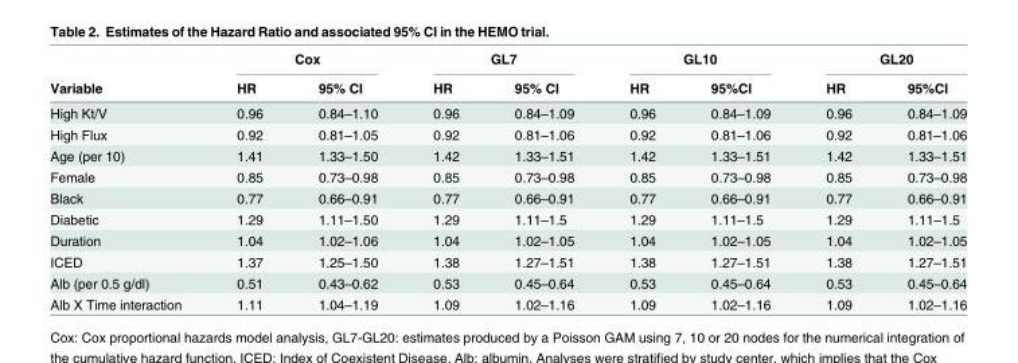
<table><thead><tr><td rowspan="2">Variable</td><td colspan="2">Cox</td><td colspan="2">GL7</td><td colspan="2">GL10</td><td colspan="2">GL20</td></tr><tr><td>HR</td><td>95% CI</td><td>HR</td><td>95% CI</td><td>HR</td><td>95%CI</td><td>HR</td><td>95%CI</td></tr></thead><tbody><tr><td>High Kt/V</td><td>0.96</td><td>0.84–1.10</td><td>0.96</td><td>0.84–1.09</td><td>0.96</td><td>0.84–1.09</td><td>0.96</td><td>0.84–1.09</td></tr><tr><td>High Flux</td><td>0.92</td><td>0.81–1.05</td><td>0.92</td><td>0.81–1.06</td><td>0.92</td><td>0.81–1.06</td><td>0.92</td><td>0.81–1.06</td></tr><tr><td>Age (per 10)</td><td>1.41</td><td>1.33–1.50</td><td>1.42</td><td>1.33–1.51</td><td>1.42</td><td>1.33–1.51</td><td>1.42</td><td>1.33–1.51</td></tr><tr><td>Female</td><td>0.85</td><td>0.73–0.98</td><td>0.85</td><td>0.73–0.98</td><td>0.85</td><td>0.73–0.98</td><td>0.85</td><td>0.73–0.98</td></tr><tr><td>Black</td><td>0.77</td><td>0.66–0.91</td><td>0.77</td><td>0.66–0.91</td><td>0.77</td><td>0.66–0.91</td><td>0.77</td><td>0.66–0.91</td></tr><tr><td>Diabetic</td><td>1.29</td><td>1.11–1.50</td><td>1.29</td><td>1.11–1.5</td><td>1.29</td><td>1.11–1.5</td><td>1.29</td><td>1.11–1.5</td></tr><tr><td>Duration</td><td>1.04</td><td>1.02–1.06</td><td>1.04</td><td>1.02–1.05</td><td>1.04</td><td>1.02–1.05</td><td>1.04</td><td>1.02–1.05</td></tr><tr><td>ICED</td><td>1.37</td><td>1.25–1.50</td><td>1.38</td><td>1.27–1.51</td><td>1.38</td><td>1.27–1.51</td><td>1.38</td><td>1.27–1.51</td></tr><tr><td>Alb (per 0.5 g/dl)</td><td>0.51</td><td>0.43–0.62</td><td>0.53</td><td>0.45–0.64</td><td>0.53</td><td>0.45–0.64</td><td>0.53</td><td>0.45–0.64</td></tr><tr><td>Alb X Time interaction</td><td>1.11</td><td>1.04–1.19</td><td>1.09</td><td>1.02–1.16</td><td>1.09</td><td>1.02–1.16</td><td>1.09</td><td>1.02–1.16</td></tr></tbody></table>